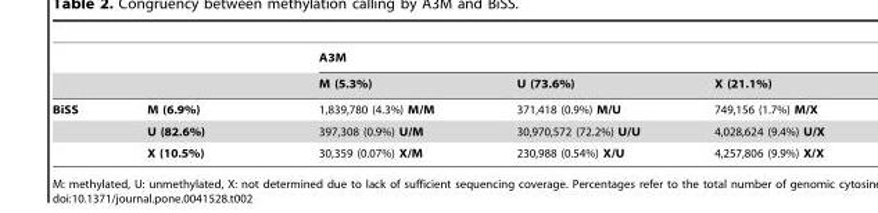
<table><thead><tr><td rowspan="2"></td><td rowspan="2"></td><td colspan="3">A3M</td></tr><tr><td>M (5.3%)</td><td>U (73.6%)</td><td>X (21.1%)</td></tr></thead><tbody><tr><td rowspan="3">BiSS</td><td>M (6.9%)</td><td>1,839,780 (4.3%) M/M</td><td>371,418 (0.9%) M/U</td><td>749,156 (1.7%) M/X</td></tr><tr><td>U (82.6%)</td><td>397,308 (0.9%) U/M</td><td>30,970,572 (72.2%) U/U</td><td>4,028,624 (9.4%) U/X</td></tr><tr><td>X (10.5%)</td><td>30,359 (0.07%) X/M</td><td>230,988 (0.54%) X/U</td><td>4,257,806 (9.9%) X/X</td></tr></tbody></table>